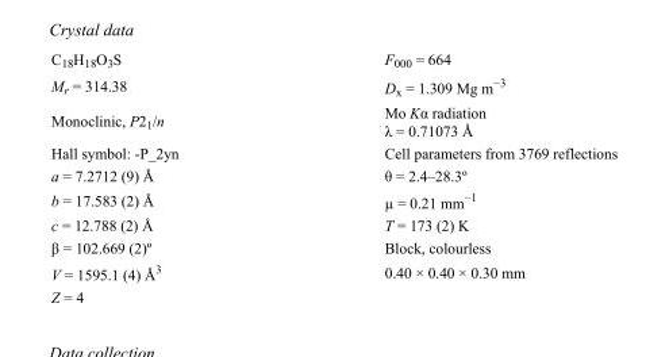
<table><tbody><tr><td>C<sub>18</sub>H<sub>18</sub>O<sub>3</sub>S</td><td>F<sub>000</sub> = 664</td></tr><tr><td>M<sub>r</sub> = 314.38</td><td>D<sub>x</sub> = 1.309 Mg m<sup>−3</sup></td></tr><tr><td>Monoclinic, P2<sub>1</sub>/n</td><td>Mo Kα radiation λ = 0.71073 Å</td></tr><tr><td>Hall symbol: -P_2yn</td><td>Cell parameters from 3769 reflections</td></tr><tr><td>a = 7.2712 (9) Å</td><td>θ = 2.4–28.3º</td></tr><tr><td>b = 17.583 (2) Å</td><td>µ = 0.21 mm<sup>−1</sup></td></tr><tr><td>c = 12.788 (2) Å</td><td>T = 173 (2) K</td></tr><tr><td>β = 102.669 (2)º</td><td>Block, colourless</td></tr><tr><td>V = 1595.1 (4) Å<sup>3</sup></td><td>0.40 × 0.40 × 0.30 mm</td></tr><tr><td>Z = 4</td><td></td></tr></tbody></table>